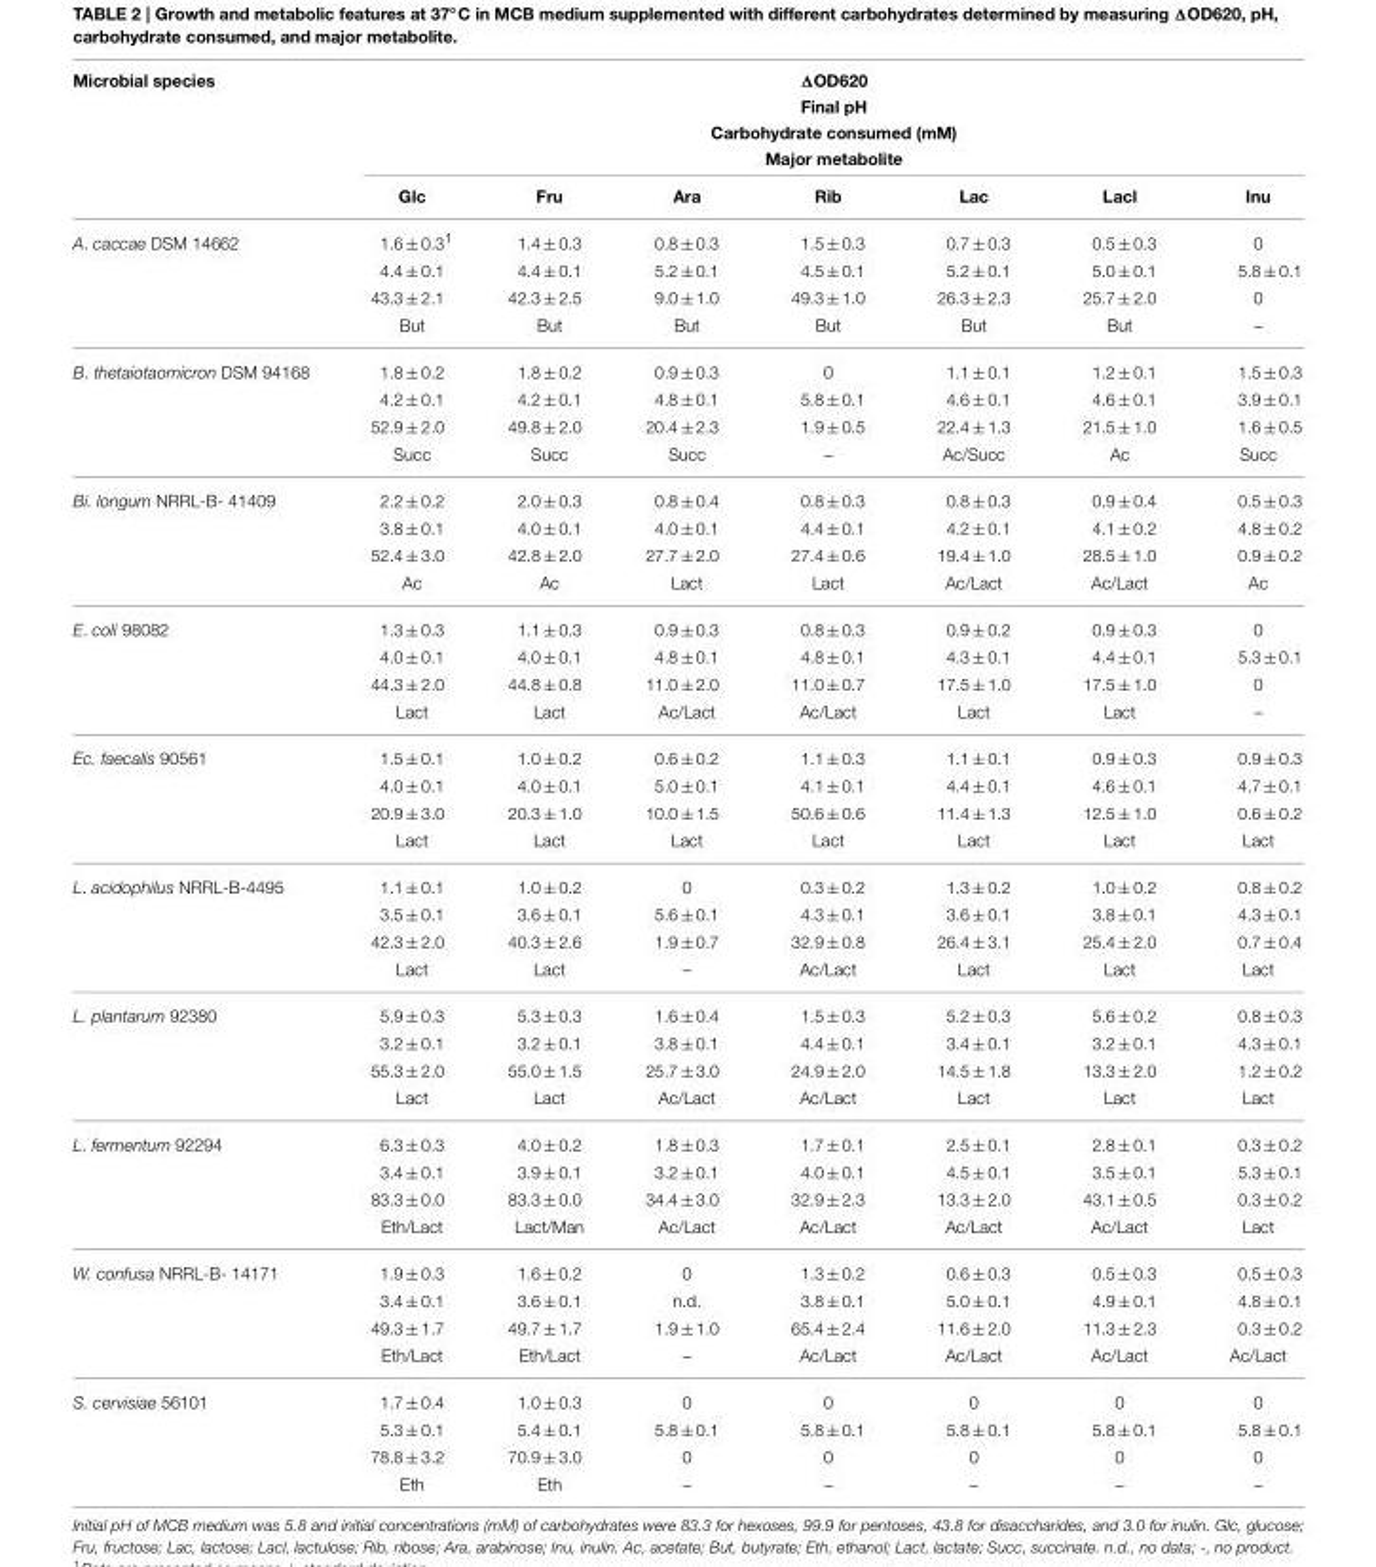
<table><thead><tr><td rowspan="2">Microbial species</td><td colspan="7">ΔOD620 Final pH Carbohydrate consumed (mM) Major metabolite</td></tr><tr><td>Glc</td><td>Fru</td><td>Ara</td><td>Rib</td><td>Lac</td><td>Lacl</td><td>Inu</td></tr></thead><tbody><tr><td rowspan="4">A. caccae DSM 14662</td><td>1.6 ± 0.3<sup>1</sup></td><td>1.4 ± 0.3</td><td>0.8 ± 0.3</td><td>1.5 ± 0.3</td><td>0.7 ± 0.3</td><td>0.5 ± 0.3</td><td>0</td></tr><tr><td>4.4 ± 0.1</td><td>4.4 ± 0.1</td><td>5.2 ± 0.1</td><td>4.5 ± 0.1</td><td>5.2 ± 0.1</td><td>5.0 ± 0.1</td><td>5.8 ± 0.1</td></tr><tr><td>43.3 ± 2.1</td><td>42.3 ± 2.5</td><td>9.0 ± 1.0</td><td>49.3 ± 1.0</td><td>26.3 ± 2.3</td><td>25.7 ± 2.0</td><td>0</td></tr><tr><td>But</td><td>But</td><td>But</td><td>But</td><td>But</td><td>But</td><td>–</td></tr><tr><td rowspan="4">B. thetaiotaomicron DSM 94168</td><td>1.8 ± 0.2</td><td>1.8 ± 0.2</td><td>0.9 ± 0.3</td><td>0</td><td>1.1 ± 0.1</td><td>1.2 ± 0.1</td><td>1.5 ± 0.3</td></tr><tr><td>4.2 ± 0.1</td><td>4.2 ± 0.1</td><td>4.8 ± 0.1</td><td>5.8 ± 0.1</td><td>4.6 ± 0.1</td><td>4.6 ± 0.1</td><td>3.9 ± 0.1</td></tr><tr><td>52.9 ± 2.0</td><td>49.8 ± 2.0</td><td>20.4 ± 2.3</td><td>1.9 ± 0.5</td><td>22.4 ± 1.3</td><td>21.5 ± 1.0</td><td>1.6 ± 0.5</td></tr><tr><td>Succ</td><td>Succ</td><td>Succ</td><td>–</td><td>Ac/Succ</td><td>Ac</td><td>Succ</td></tr><tr><td rowspan="4">Bi. longum NRRL-B- 41409</td><td>2.2 ± 0.2</td><td>2.0 ± 0.3</td><td>0.8 ± 0.4</td><td>0.8 ± 0.3</td><td>0.8 ± 0.3</td><td>0.9 ± 0.4</td><td>0.5 ± 0.3</td></tr><tr><td>3.8 ± 0.1</td><td>4.0 ± 0.1</td><td>4.0 ± 0.1</td><td>4.4 ± 0.1</td><td>4.2 ± 0.1</td><td>4.1 ± 0.2</td><td>4.8 ± 0.2</td></tr><tr><td>52.4 ± 3.0</td><td>42.8 ± 2.0</td><td>27.7 ± 2.0</td><td>27.4 ± 0.6</td><td>19.4 ± 1.0</td><td>28.5 ± 1.0</td><td>0.9 ± 0.2</td></tr><tr><td>Ac</td><td>Ac</td><td>Lact</td><td>Lact</td><td>Ac/Lact</td><td>Ac/Lact</td><td>Ac</td></tr><tr><td rowspan="4">E. coli 98082</td><td>1.3 ± 0.3</td><td>1.1 ± 0.3</td><td>0.9 ± 0.3</td><td>0.8 ± 0.3</td><td>0.9 ± 0.2</td><td>0.9 ± 0.3</td><td>0</td></tr><tr><td>4.0 ± 0.1</td><td>4.0 ± 0.1</td><td>4.8 ± 0.1</td><td>4.8 ± 0.1</td><td>4.3 ± 0.1</td><td>4.4 ± 0.1</td><td>5.3 ± 0.1</td></tr><tr><td>44.3 ± 2.0</td><td>44.8 ± 0.8</td><td>11.0 ± 2.0</td><td>11.0 ± 0.7</td><td>17.5 ± 1.0</td><td>17.5 ± 1.0</td><td>0</td></tr><tr><td>Lact</td><td>Lact</td><td>Ac/Lact</td><td>Ac/Lact</td><td>Lact</td><td>Lact</td><td>–</td></tr><tr><td rowspan="4">Ec. faecalis 90561</td><td>1.5 ± 0.1</td><td>1.0 ± 0.2</td><td>0.6 ± 0.2</td><td>1.1 ± 0.3</td><td>1.1 ± 0.1</td><td>0.9 ± 0.3</td><td>0.9 ± 0.3</td></tr><tr><td>4.0 ± 0.1</td><td>4.0 ± 0.1</td><td>5.0 ± 0.1</td><td>4.1 ± 0.1</td><td>4.4 ± 0.1</td><td>4.6 ± 0.1</td><td>4.7 ± 0.1</td></tr><tr><td>20.9 ± 3.0</td><td>20.3 ± 1.0</td><td>10.0 ± 1.5</td><td>50.6 ± 0.6</td><td>11.4 ± 1.3</td><td>12.5 ± 1.0</td><td>0.6 ± 0.2</td></tr><tr><td>Lact</td><td>Lact</td><td>Lact</td><td>Lact</td><td>Lact</td><td>Lact</td><td>Lact</td></tr><tr><td rowspan="4">L. acidophilus NRRL-B-4495</td><td>1.1 ± 0.1</td><td>1.0 ± 0.2</td><td>0</td><td>0.3 ± 0.2</td><td>1.3 ± 0.2</td><td>1.0 ± 0.2</td><td>0.8 ± 0.2</td></tr><tr><td>3.5 ± 0.1</td><td>3.6 ± 0.1</td><td>5.6 ± 0.1</td><td>4.3 ± 0.1</td><td>3.6 ± 0.1</td><td>3.8 ± 0.1</td><td>4.3 ± 0.1</td></tr><tr><td>42.3 ± 2.0</td><td>40.3 ± 2.6</td><td>1.9 ± 0.7</td><td>32.9 ± 0.8</td><td>26.4 ± 3.1</td><td>25.4 ± 2.0</td><td>0.7 ± 0.4</td></tr><tr><td>Lact</td><td>Lact</td><td>–</td><td>Ac/Lact</td><td>Lact</td><td>Lact</td><td>Lact</td></tr><tr><td rowspan="4">L. plantarum 92380</td><td>5.9 ± 0.3</td><td>5.3 ± 0.3</td><td>1.6 ± 0.4</td><td>1.5 ± 0.3</td><td>5.2 ± 0.3</td><td>5.6 ± 0.2</td><td>0.8 ± 0.3</td></tr><tr><td>3.2 ± 0.1</td><td>3.2 ± 0.1</td><td>3.8 ± 0.1</td><td>4.4 ± 0.1</td><td>3.4 ± 0.1</td><td>3.2 ± 0.1</td><td>4.3 ± 0.1</td></tr><tr><td>55.3 ± 2.0</td><td>55.0 ± 1.5</td><td>25.7 ± 3.0</td><td>24.9 ± 2.0</td><td>14.5 ± 1.8</td><td>13.3 ± 2.0</td><td>1.2 ± 0.2</td></tr><tr><td>Lact</td><td>Lact</td><td>Ac/Lact</td><td>Ac/Lact</td><td>Lact</td><td>Lact</td><td>Lact</td></tr><tr><td rowspan="4">L. fermentum 92294</td><td>6.3 ± 0.3</td><td>4.0 ± 0.2</td><td>1.8 ± 0.3</td><td>1.7 ± 0.1</td><td>2.5 ± 0.1</td><td>2.8 ± 0.1</td><td>0.3 ± 0.2</td></tr><tr><td>3.4 ± 0.1</td><td>3.9 ± 0.1</td><td>3.2 ± 0.1</td><td>4.0 ± 0.1</td><td>4.5 ± 0.1</td><td>3.5 ± 0.1</td><td>5.3 ± 0.1</td></tr><tr><td>83.3 ± 0.0</td><td>83.3 ± 0.0</td><td>34.4 ± 3.0</td><td>32.9 ± 2.3</td><td>13.3 ± 2.0</td><td>43.1 ± 0.5</td><td>0.3 ± 0.2</td></tr><tr><td>Eth/Lact</td><td>Lact/Man</td><td>Ac/Lact</td><td>Ac/Lact</td><td>Ac/Lact</td><td>Ac/Lact</td><td>Lact</td></tr><tr><td rowspan="4">W. confusa NRRL-B- 14171</td><td>1.9 ± 0.3</td><td>1.6 ± 0.2</td><td>0</td><td>1.3 ± 0.2</td><td>0.6 ± 0.3</td><td>0.5 ± 0.3</td><td>0.5 ± 0.3</td></tr><tr><td>3.4 ± 0.1</td><td>3.6 ± 0.1</td><td>n.d.</td><td>3.8 ± 0.1</td><td>5.0 ± 0.1</td><td>4.9 ± 0.1</td><td>4.8 ± 0.1</td></tr><tr><td>49.3 ± 1.7</td><td>49.7 ± 1.7</td><td>1.9 ± 1.0</td><td>65.4 ± 2.4</td><td>11.6 ± 2.0</td><td>11.3 ± 2.3</td><td>0.3 ± 0.2</td></tr><tr><td>Eth/Lact</td><td>Eth/Lact</td><td>–</td><td>Ac/Lact</td><td>Ac/Lact</td><td>Ac/Lact</td><td>Ac/Lact</td></tr><tr><td rowspan="4">S. cervisiae 56101</td><td>1.7 ± 0.4</td><td>1.0 ± 0.3</td><td>0</td><td>0</td><td>0</td><td>0</td><td>0</td></tr><tr><td>5.3 ± 0.1</td><td>5.4 ± 0.1</td><td>5.8 ± 0.1</td><td>5.8 ± 0.1</td><td>5.8 ± 0.1</td><td>5.8 ± 0.1</td><td>5.8 ± 0.1</td></tr><tr><td>78.8 ± 3.2</td><td>70.9 ± 3.0</td><td>0</td><td>0</td><td>0</td><td>0</td><td>0</td></tr><tr><td>Eth</td><td>Eth</td><td>–</td><td>–</td><td>–</td><td>–</td><td>–</td></tr></tbody></table>